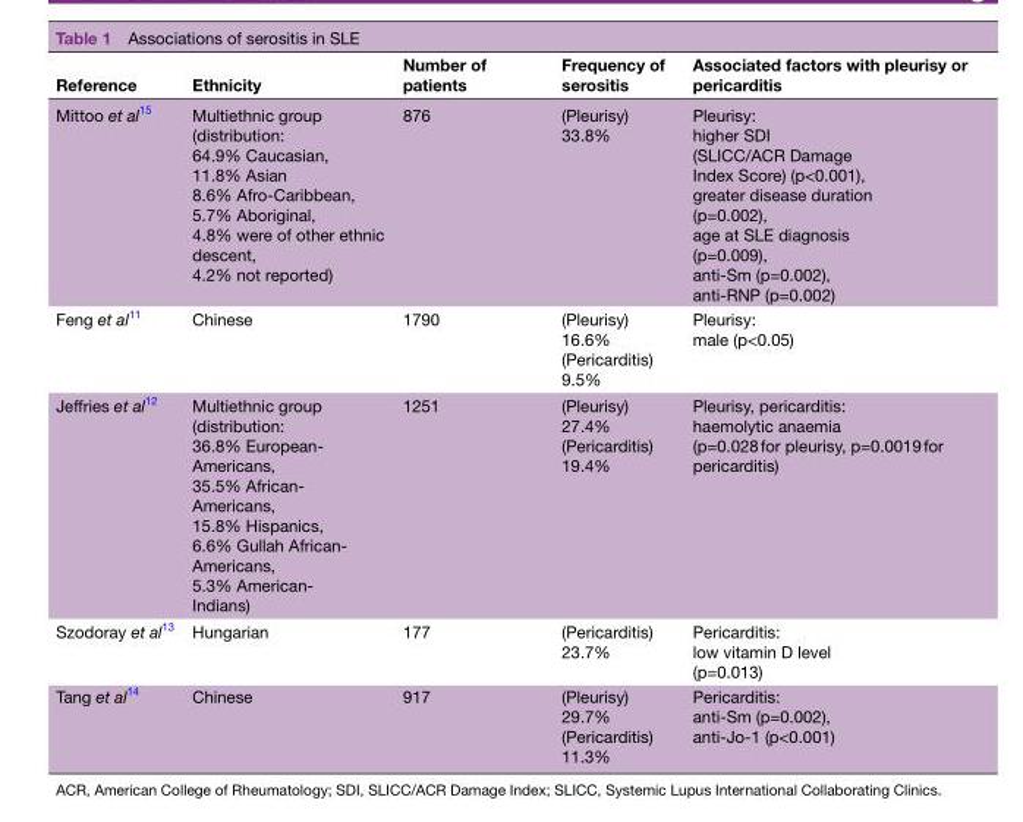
<table><thead><tr><td>Reference</td><td>Ethnicity</td><td>Number of patients</td><td>Frequency of serositis</td><td>Associated factors with pleurisy or pericarditis</td></tr></thead><tbody><tr><td>Mittoo et al<sup>15</sup></td><td>Multiethnic group (distribution: 64.9% Caucasian, 11.8% Asian 8.6% Afro-Caribbean, 5.7% Aboriginal, 4.8% were of other ethnic descent, 4.2% not reported)</td><td>876</td><td>(Pleurisy) 33.8%</td><td>Pleurisy: higher SDI (SLICC/ACR Damage Index Score) (p&lt;0.001), greater disease duration (p=0.002), age at SLE diagnosis (p=0.009), anti-Sm (p=0.002), anti-RNP (p=0.002)</td></tr><tr><td>Feng et al<sup>11</sup></td><td>Chinese</td><td>1790</td><td>(Pleurisy) 16.6% (Pericarditis) 9.5%</td><td>Pleurisy: male (p&lt;0.05)</td></tr><tr><td>Jeffries et al<sup>12</sup></td><td>Multiethnic group (distribution: 36.8% European- Americans, 35.5% African- Americans, 15.8% Hispanics, 6.6% Gullah African- Americans, 5.3% American- Indians)</td><td>1251</td><td>(Pleurisy) 27.4% (Pericarditis) 19.4%</td><td>Pleurisy, pericarditis: haemolytic anaemia (p=0.028 for pleurisy, p=0.0019 for pericarditis)</td></tr><tr><td>Szodoray et al<sup>13</sup></td><td>Hungarian</td><td>177</td><td>(Pericarditis) 23.7%</td><td>Pericarditis: low vitamin D level (p=0.013)</td></tr><tr><td>Tang et al<sup>14</sup></td><td>Chinese</td><td>917</td><td>(Pleurisy) 29.7% (Pericarditis) 11.3%</td><td>Pericarditis: anti-Sm (p=0.002), anti-Jo-1 (p&lt;0.001)</td></tr></tbody></table>